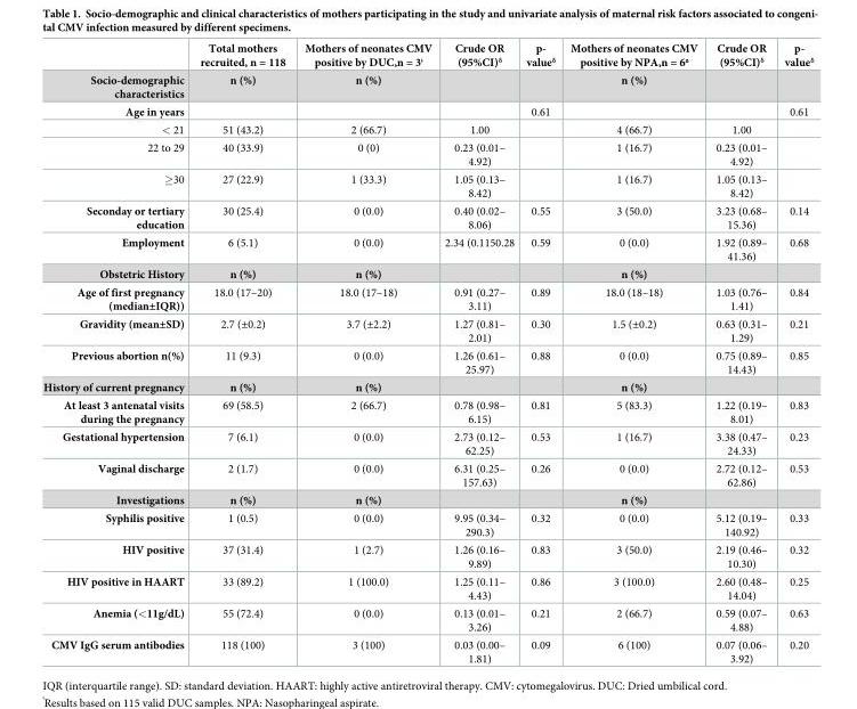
<table><thead><tr><td></td><td>Total mothers recruited, n = 118</td><td>Mothers of neonates CMV positive by DUC,n = 3ᶤ</td><td>Crude OR (95%CI)ᵟ</td><td>p- valueᵟ</td><td>Mothers of neonates CMV positive by NPA,n = 6ᶽ</td><td>Crude OR (95%CI)ᵟ</td><td>p- valueᵟ</td></tr></thead><tbody><tr><td>Socio-demographic characteristics</td><td>n (%)</td><td>n (%)</td><td></td><td></td><td>n (%)</td><td></td><td></td></tr><tr><td>Age in years</td><td></td><td></td><td></td><td>0.61</td><td></td><td></td><td>0.61</td></tr><tr><td>&lt; 21</td><td>51 (43.2)</td><td>2 (66.7)</td><td>1.00</td><td></td><td>4 (66.7)</td><td>1.00</td><td></td></tr><tr><td>22 to 29</td><td>40 (33.9)</td><td>0 (0)</td><td>0.23 (0.01– 4.92)</td><td></td><td>1 (16.7)</td><td>0.23 (0.01– 4.92)</td><td></td></tr><tr><td>≥30</td><td>27 (22.9)</td><td>1 (33.3)</td><td>1.05 (0.13– 8.42)</td><td></td><td>1 (16.7)</td><td>1.05 (0.13– 8.42)</td><td></td></tr><tr><td>Seconday or tertiary education</td><td>30 (25.4)</td><td>0 (0.0)</td><td>0.40 (0.02– 8.06)</td><td>0.55</td><td>3 (50.0)</td><td>3.23 (0.68– 15.36)</td><td>0.14</td></tr><tr><td>Employment</td><td>6 (5.1)</td><td>0 (0.0)</td><td>2.34 (0.1150.28</td><td>0.59</td><td>0 (0.0)</td><td>1.92 (0.89– 41.36)</td><td>0.68</td></tr><tr><td>Obstetric History</td><td>n (%)</td><td>n (%)</td><td></td><td></td><td>n (%)</td><td></td><td></td></tr><tr><td>Age of first pregnancy (median±IQR))</td><td>18.0 (17–20)</td><td>18.0 (17–18)</td><td>0.91 (0.27– 3.11)</td><td>0.89</td><td>18.0 (18–18)</td><td>1.03 (0.76– 1.41)</td><td>0.84</td></tr><tr><td>Gravidity (mean±SD)</td><td>2.7 (±0.2)</td><td>3.7 (±2.2)</td><td>1.27 (0.81– 2.01)</td><td>0.30</td><td>1.5 (±0.2)</td><td>0.63 (0.31– 1.29)</td><td>0.21</td></tr><tr><td>Previous abortion n(%)</td><td>11 (9.3)</td><td>0 (0.0)</td><td>1.26 (0.61– 25.97)</td><td>0.88</td><td>0 (0.0)</td><td>0.75 (0.89– 14.43)</td><td>0.85</td></tr><tr><td>History of current pregnancy</td><td>n (%)</td><td>n (%)</td><td></td><td></td><td>n (%)</td><td></td><td></td></tr><tr><td>At least 3 antenatal visits during the pregnancy</td><td>69 (58.5)</td><td>2 (66.7)</td><td>0.78 (0.98– 6.15)</td><td>0.81</td><td>5 (83.3)</td><td>1.22 (0.19– 8.01)</td><td>0.83</td></tr><tr><td>Gestational hypertension</td><td>7 (6.1)</td><td>0 (0.0)</td><td>2.73 (0.12– 62.25)</td><td>0.53</td><td>1 (16.7)</td><td>3.38 (0.47– 24.33)</td><td>0.23</td></tr><tr><td>Vaginal discharge</td><td>2 (1.7)</td><td>0 (0.0)</td><td>6.31 (0.25– 157.63)</td><td>0.26</td><td>0 (0.0)</td><td>2.72 (0.12– 62.86)</td><td>0.53</td></tr><tr><td>Investigations</td><td>n (%)</td><td>n (%)</td><td></td><td></td><td>n (%)</td><td></td><td></td></tr><tr><td>Syphilis positive</td><td>1 (0.5)</td><td>0 (0.0)</td><td>9.95 (0.34– 290.3)</td><td>0.32</td><td>0 (0.0)</td><td>5.12 (0.19– 140.92)</td><td>0.33</td></tr><tr><td>HIV positive</td><td>37 (31.4)</td><td>1 (2.7)</td><td>1.26 (0.16– 9.89)</td><td>0.83</td><td>3 (50.0)</td><td>2.19 (0.46– 10.30)</td><td>0.32</td></tr><tr><td>HIV positive in HAART</td><td>33 (89.2)</td><td>1 (100.0)</td><td>1.25 (0.11– 4.43)</td><td>0.86</td><td>3 (100.0)</td><td>2.60 (0.48– 14.04)</td><td>0.25</td></tr><tr><td>Anemia (&lt;11g/dL)</td><td>55 (72.4)</td><td>0 (0.0)</td><td>0.13 (0.01– 3.26)</td><td>0.21</td><td>2 (66.7)</td><td>0.59 (0.07– 4.88)</td><td>0.63</td></tr><tr><td>CMV IgG serum antibodies</td><td>118 (100)</td><td>3 (100)</td><td>0.03 (0.00– 1.81)</td><td>0.09</td><td>6 (100)</td><td>0.07 (0.06– 3.92)</td><td>0.20</td></tr></tbody></table>